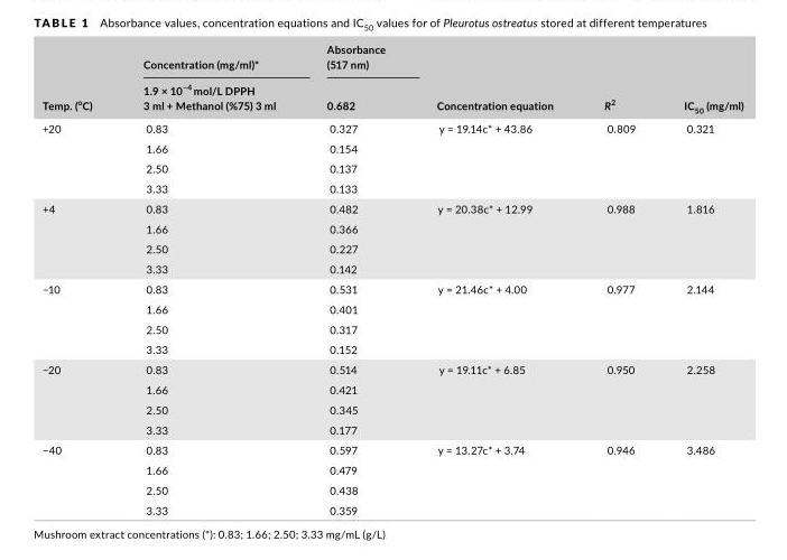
<table><thead><tr><td rowspan="2">Temp. (<sup>o</sup>C)</td><td rowspan="2">Concentration (mg/ml)* 1.9 × 10<sup>−4</sup> mol/L DPPH 3 ml + Methanol (%75) 3 ml</td><td rowspan="2">Absorbance (517 nm) 0.682</td><td rowspan="2">Concentration equation</td><td rowspan="2">R<sup>2</sup></td><td rowspan="2">IC<sub>50</sub> (mg/ml)</td></tr><tr></tr></thead><tbody><tr><td rowspan="4">+20</td><td>0.83</td><td>0.327</td><td>y = 19.14c* + 43.86</td><td>0.809</td><td>0.321</td></tr><tr><td>1.66</td><td>0.154</td><td></td><td></td><td></td></tr><tr><td>2.50</td><td>0.137</td><td></td><td></td><td></td></tr><tr><td>3.33</td><td>0.133</td><td></td><td></td><td></td></tr><tr><td rowspan="4">+4</td><td>0.83</td><td>0.482</td><td>y = 20.38c* + 12.99</td><td>0.988</td><td>1.816</td></tr><tr><td>1.66</td><td>0.366</td><td></td><td></td><td></td></tr><tr><td>2.50</td><td>0.227</td><td></td><td></td><td></td></tr><tr><td>3.33</td><td>0.142</td><td></td><td></td><td></td></tr><tr><td rowspan="4">−10</td><td>0.83</td><td>0.531</td><td>y = 21.46c* + 4.00</td><td>0.977</td><td>2.144</td></tr><tr><td>1.66</td><td>0.401</td><td></td><td></td><td></td></tr><tr><td>2.50</td><td>0.317</td><td></td><td></td><td></td></tr><tr><td>3.33</td><td>0.152</td><td></td><td></td><td></td></tr><tr><td rowspan="4">−20</td><td>0.83</td><td>0.514</td><td>y = 19.11c* + 6.85</td><td>0.950</td><td>2.258</td></tr><tr><td>1.66</td><td>0.421</td><td></td><td></td><td></td></tr><tr><td>2.50</td><td>0.345</td><td></td><td></td><td></td></tr><tr><td>3.33</td><td>0.177</td><td></td><td></td><td></td></tr><tr><td rowspan="4">−40</td><td>0.83</td><td>0.597</td><td>y = 13.27c* + 3.74</td><td>0.946</td><td>3.486</td></tr><tr><td>1.66</td><td>0.479</td><td></td><td></td><td></td></tr><tr><td>2.50</td><td>0.438</td><td></td><td></td><td></td></tr><tr><td>3.33</td><td>0.359</td><td></td><td></td><td></td></tr></tbody></table>